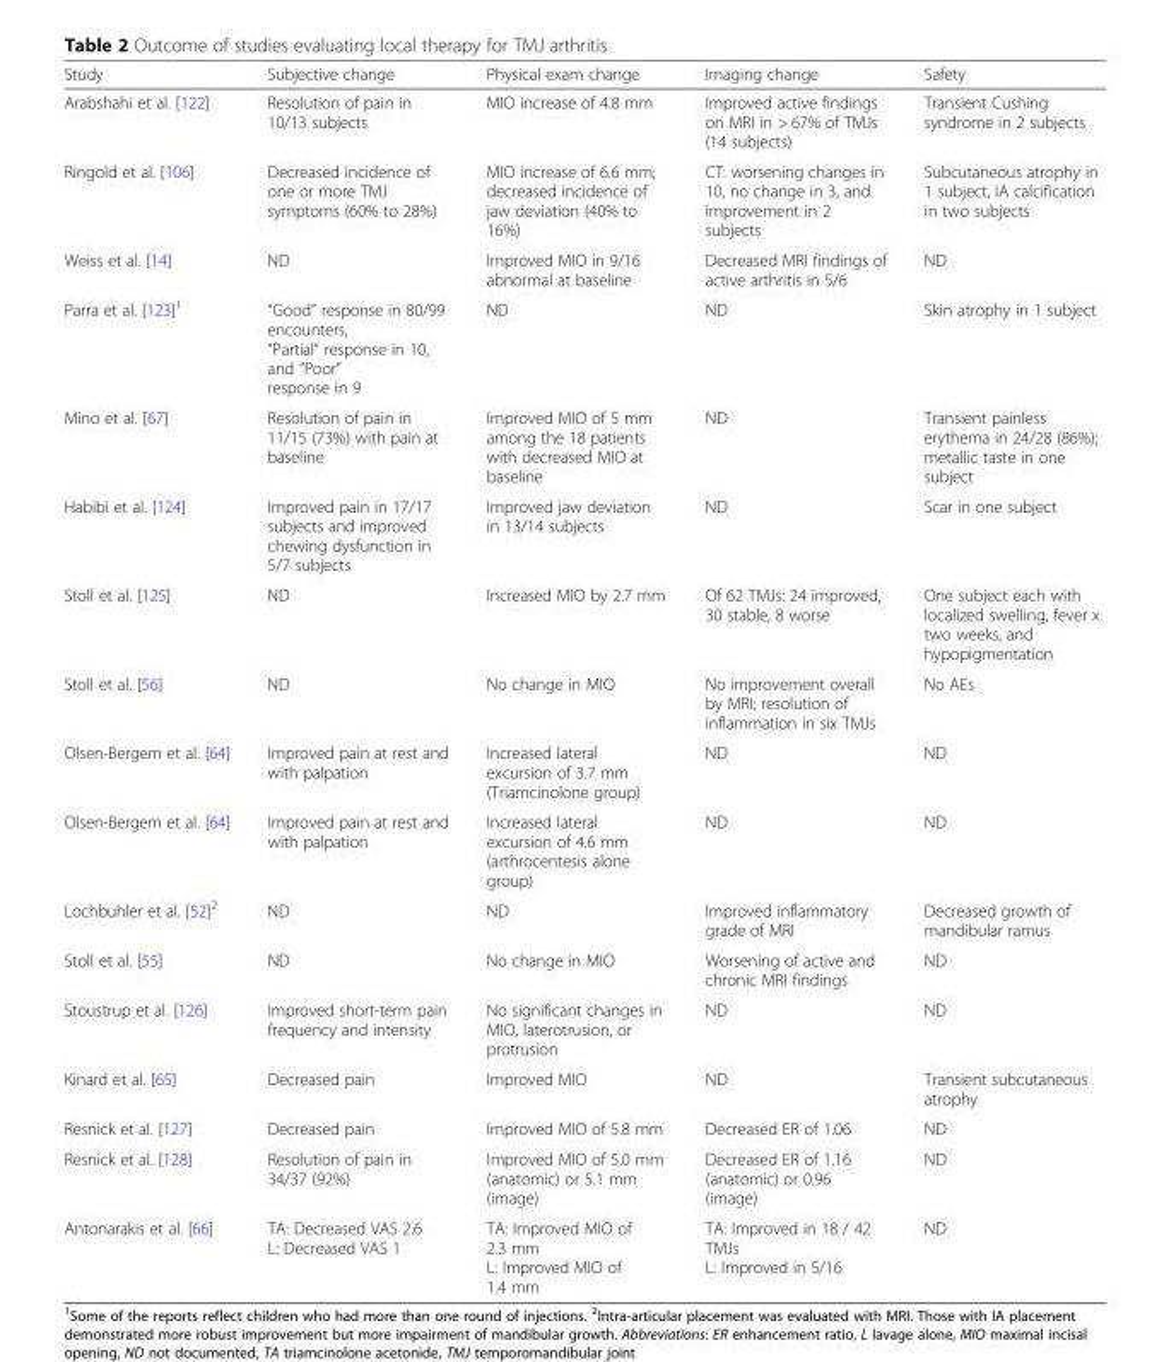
<table><thead><tr><td>Study</td><td>Subjective change</td><td>Physical exam change</td><td>Imaging change</td><td>Safety</td></tr></thead><tbody><tr><td>Arabshahi et al. [122]</td><td>Resolution of pain in 10/13 subjects</td><td>MIO increase of 4.8 mm</td><td>Improved active findings on MRI in &gt; 67% of TMJs (14 subjects)</td><td>Transient Cushing syndrome in 2 subjects</td></tr><tr><td>Ringold et al. [106]</td><td>Decreased incidence of one or more TMJ symptoms (60% to 28%)</td><td>MIO increase of 6.6 mm; decreased incidence of jaw deviation (40% to 16%)</td><td>CT: worsening changes in 10, no change in 3, and improvement in 2 subjects</td><td>Subcutaneous atrophy in 1 subject, IA calcification in two subjects</td></tr><tr><td>Weiss et al. [14]</td><td>ND</td><td>Improved MIO in 9/16 abnormal at baseline</td><td>Decreased MRI findings of active arthritis in 5/6</td><td>ND</td></tr><tr><td>Parra et al. [123]<sup>1</sup></td><td>“Good” response in 80/99 encounters, “Partial” response in 10, and “Poor” response in 9</td><td>ND</td><td>ND</td><td>Skin atrophy in 1 subject</td></tr><tr><td>Mino et al. [67]</td><td>Resolution of pain in 11/15 (73%) with pain at baseline</td><td>Improved MIO of 5 mm among the 18 patients with decreased MIO at baseline</td><td>ND</td><td>Transient painless erythema in 24/28 (86%); metallic taste in one subject</td></tr><tr><td>Habibi et al. [124]</td><td>Improved pain in 17/17 subjects and improved chewing dysfunction in 5/7 subjects</td><td>Improved jaw deviation in 13/14 subjects</td><td>ND</td><td>Scar in one subject</td></tr><tr><td>Stoll et al. [125]</td><td>ND</td><td>Increased MIO by 2.7 mm</td><td>Of 62 TMJs: 24 improved, 30 stable, 8 worse</td><td>One subject each with localized swelling, fever x two weeks, and hypopigmentation</td></tr><tr><td>Stoll et al. [56]</td><td>ND</td><td>No change in MIO</td><td>No improvement overall by MRI; resolution of inflammation in six TMJs</td><td>No AEs</td></tr><tr><td>Olsen-Bergem et al. [64]</td><td>Improved pain at rest and with palpation</td><td>Increased lateral excursion of 3.7 mm (Triamcinolone group)</td><td>ND</td><td>ND</td></tr><tr><td>Olsen-Bergem et al. [64]</td><td>Improved pain at rest and with palpation</td><td>Increased lateral excursion of 4.6 mm (arthrocentesis alone group)</td><td>ND</td><td>ND</td></tr><tr><td>Lochbuhler et al. [52]<sup>2</sup></td><td>ND</td><td>ND</td><td>Improved inflammatory grade of MRI</td><td>Decreased growth of mandibular ramus</td></tr><tr><td>Stoll et al. [55]</td><td>ND</td><td>No change in MIO</td><td>Worsening of active and chronic MRI findings</td><td>ND</td></tr><tr><td>Stoustrup et al. [126]</td><td>Improved short-term pain frequency and intensity</td><td>No significant changes in MIO, laterotrusion, or protrusion</td><td>ND</td><td>ND</td></tr><tr><td>Kinard et al. [65]</td><td>Decreased pain</td><td>Improved MIO</td><td>ND</td><td>Transient subcutaneous atrophy</td></tr><tr><td>Resnick et al. [127]</td><td>Decreased pain</td><td>Improved MIO of 5.8 mm</td><td>Decreased ER of 1.06</td><td>ND</td></tr><tr><td>Resnick et al. [128]</td><td>Resolution of pain in 34/37 (92%)</td><td>Improved MIO of 5.0 mm (anatomic) or 5.1 mm (image)</td><td>Decreased ER of 1.16 (anatomic) or 0.96 (image)</td><td>ND</td></tr><tr><td>Antonarakis et al. [66]</td><td>TA: Decreased VAS 2.6 L: Decreased VAS 1</td><td>TA: Improved MIO of 2.3 mm L: Improved MIO of 1.4 mm</td><td>TA: Improved in 18 / 42 TMJs L: Improved in 5/16</td><td>ND</td></tr></tbody></table>